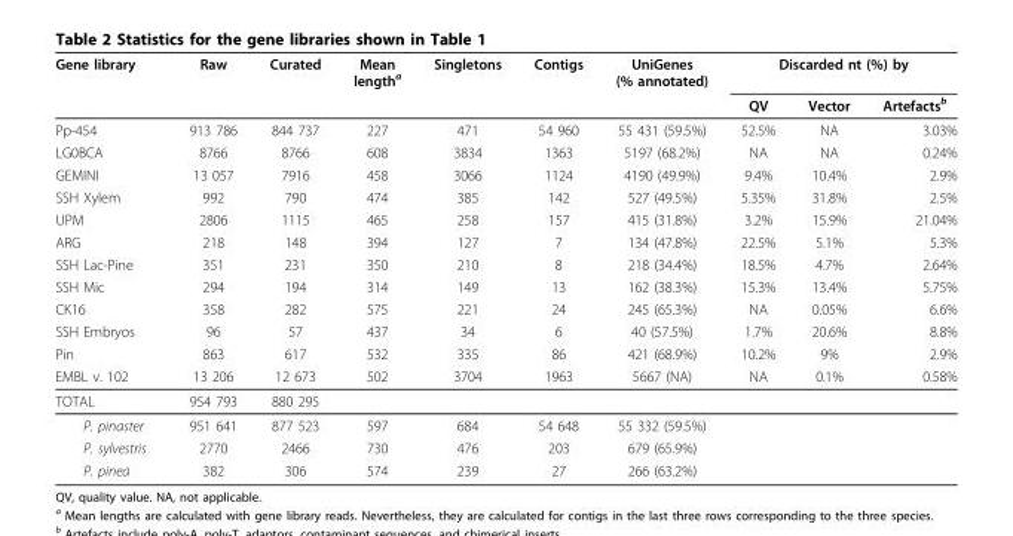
<table><thead><tr><td rowspan="2">Gene library</td><td rowspan="2">Raw</td><td rowspan="2">Curated</td><td rowspan="2">Mean length<sup>a</sup></td><td rowspan="2">Singletons</td><td rowspan="2">Contigs</td><td rowspan="2">UniGenes (% annotated)</td><td colspan="3">Discarded nt (%) by</td></tr><tr><td>QV</td><td>Vector</td><td>Artefacts<sup>b</sup></td></tr></thead><tbody><tr><td>Pp-454</td><td>913 786</td><td>844 737</td><td>227</td><td>471</td><td>54 960</td><td>55 431 (59.5%)</td><td>52.5%</td><td>NA</td><td>3.03%</td></tr><tr><td>LG0BCA</td><td>8766</td><td>8766</td><td>608</td><td>3834</td><td>1363</td><td>5197 (68.2%)</td><td>NA</td><td>NA</td><td>0.24%</td></tr><tr><td>GEMINI</td><td>13 057</td><td>7916</td><td>458</td><td>3066</td><td>1124</td><td>4190 (49.9%)</td><td>9.4%</td><td>10.4%</td><td>2.9%</td></tr><tr><td>SSH Xylem</td><td>992</td><td>790</td><td>474</td><td>385</td><td>142</td><td>527 (49.5%)</td><td>5.35%</td><td>31.8%</td><td>2.5%</td></tr><tr><td>UPM</td><td>2806</td><td>1115</td><td>465</td><td>258</td><td>157</td><td>415 (31.8%)</td><td>3.2%</td><td>15.9%</td><td>21.04%</td></tr><tr><td>ARG</td><td>218</td><td>148</td><td>394</td><td>127</td><td>7</td><td>134 (47.8%)</td><td>22.5%</td><td>5.1%</td><td>5.3%</td></tr><tr><td>SSH Lac-Pine</td><td>351</td><td>231</td><td>350</td><td>210</td><td>8</td><td>218 (34.4%)</td><td>18.5%</td><td>4.7%</td><td>2.64%</td></tr><tr><td>SSH Mic</td><td>294</td><td>194</td><td>314</td><td>149</td><td>13</td><td>162 (38.3%)</td><td>15.3%</td><td>13.4%</td><td>5.75%</td></tr><tr><td>CK16</td><td>358</td><td>282</td><td>575</td><td>221</td><td>24</td><td>245 (65.3%)</td><td>NA</td><td>0.05%</td><td>6.6%</td></tr><tr><td>SSH Embryos</td><td>96</td><td>57</td><td>437</td><td>34</td><td>6</td><td>40 (57.5%)</td><td>1.7%</td><td>20.6%</td><td>8.8%</td></tr><tr><td>Pin</td><td>863</td><td>617</td><td>532</td><td>335</td><td>86</td><td>421 (68.9%)</td><td>10.2%</td><td>9%</td><td>2.9%</td></tr><tr><td>EMBL v. 102</td><td>13 206</td><td>12 673</td><td>502</td><td>3704</td><td>1963</td><td>5667 (NA)</td><td>NA</td><td>0.1%</td><td>0.58%</td></tr><tr><td>TOTAL</td><td>954 793</td><td>880 295</td><td></td><td></td><td></td><td></td><td></td><td></td><td></td></tr><tr><td>P. pinaster</td><td>951 641</td><td>877 523</td><td>597</td><td>684</td><td>54 648</td><td>55 332 (59.5%)</td><td></td><td></td><td></td></tr><tr><td>P. sylvestris</td><td>2770</td><td>2466</td><td>730</td><td>476</td><td>203</td><td>679 (65.9%)</td><td></td><td></td><td></td></tr><tr><td>P. pinea</td><td>382</td><td>306</td><td>574</td><td>239</td><td>27</td><td>266 (63.2%)</td><td></td><td></td><td></td></tr></tbody></table>